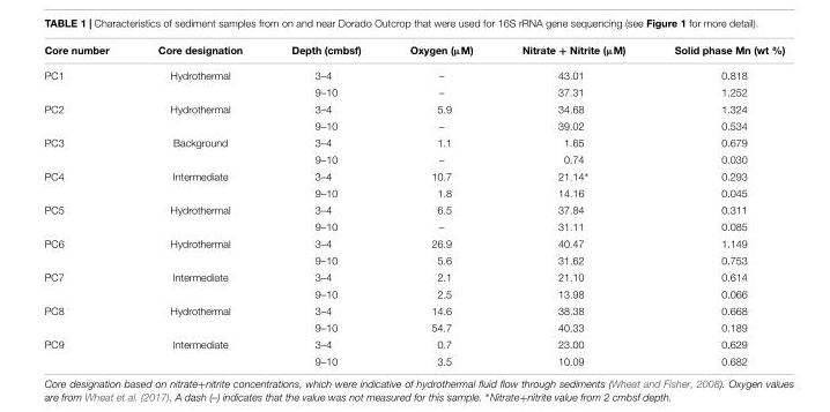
<table><thead><tr><td>Core number</td><td>Core designation</td><td>Depth (cmbsf)</td><td>Oxygen (µM)</td><td>Nitrate + Nitrite (µM)</td><td>Solid phase Mn (wt %)</td></tr></thead><tbody><tr><td rowspan="2">PC1</td><td>Hydrothermal</td><td>3–4</td><td>–</td><td>43.01</td><td>0.818</td></tr><tr><td></td><td>9–10</td><td>–</td><td>37.31</td><td>1.252</td></tr><tr><td rowspan="2">PC2</td><td>Hydrothermal</td><td>3–4</td><td>5.9</td><td>34.68</td><td>1.324</td></tr><tr><td></td><td>9–10</td><td>–</td><td>39.02</td><td>0.534</td></tr><tr><td rowspan="2">PC3</td><td>Background</td><td>3–4</td><td>1.1</td><td>1.65</td><td>0.679</td></tr><tr><td></td><td>9–10</td><td>–</td><td>0.74</td><td>0.030</td></tr><tr><td rowspan="2">PC4</td><td>Intermediate</td><td>3–4</td><td>10.7</td><td>21.14∗</td><td>0.293</td></tr><tr><td></td><td>9–10</td><td>1.8</td><td>14.16</td><td>0.045</td></tr><tr><td rowspan="2">PC5</td><td>Hydrothermal</td><td>3–4</td><td>6.5</td><td>37.84</td><td>0.311</td></tr><tr><td></td><td>9–10</td><td>–</td><td>31.11</td><td>0.085</td></tr><tr><td rowspan="2">PC6</td><td>Hydrothermal</td><td>3–4</td><td>26.9</td><td>40.47</td><td>1.149</td></tr><tr><td></td><td>9–10</td><td>5.6</td><td>31.62</td><td>0.753</td></tr><tr><td rowspan="2">PC7</td><td>Intermediate</td><td>3–4</td><td>2.1</td><td>21.10</td><td>0.614</td></tr><tr><td></td><td>9–10</td><td>2.5</td><td>13.98</td><td>0.066</td></tr><tr><td rowspan="2">PC8</td><td>Hydrothermal</td><td>3–4</td><td>14.6</td><td>38.38</td><td>0.668</td></tr><tr><td></td><td>9–10</td><td>54.7</td><td>40.33</td><td>0.189</td></tr><tr><td rowspan="2">PC9</td><td>Intermediate</td><td>3–4</td><td>0.7</td><td>23.00</td><td>0.629</td></tr><tr><td></td><td>9–10</td><td>3.5</td><td>10.09</td><td>0.682</td></tr></tbody></table>